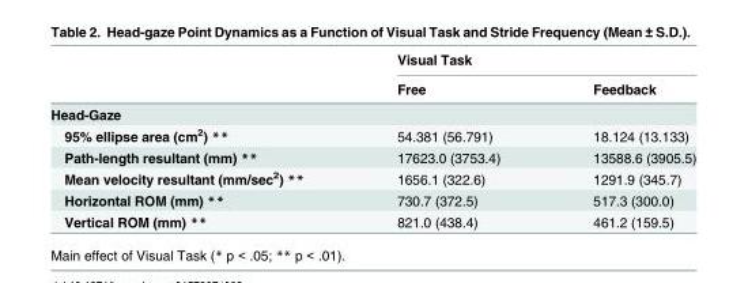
<table><thead><tr><td rowspan="2"></td><td colspan="2">Visual Task</td></tr><tr><td>Free</td><td>Feedback</td></tr></thead><tbody><tr><td colspan="3">Head-Gaze</td></tr><tr><td>95% ellipse area (cm<sup>2</sup>) **</td><td>54.381 (56.791)</td><td>18.124 (13.133)</td></tr><tr><td>Path-length resultant (mm) **</td><td>17623.0 (3753.4)</td><td>13588.6 (3905.5)</td></tr><tr><td>Mean velocity resultant (mm/sec<sup>2</sup>) **</td><td>1656.1 (322.6)</td><td>1291.9 (345.7)</td></tr><tr><td>Horizontal ROM (mm) **</td><td>730.7 (372.5)</td><td>517.3 (300.0)</td></tr><tr><td>Vertical ROM (mm) **</td><td>821.0 (438.4)</td><td>461.2 (159.5)</td></tr></tbody></table>